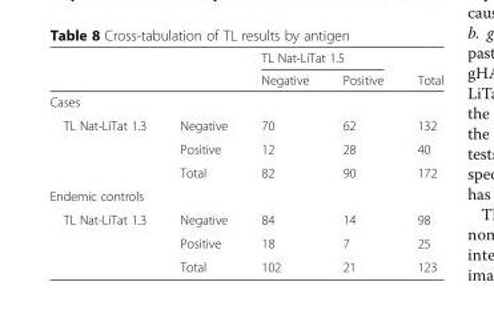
<table><thead><tr><td rowspan="2"></td><td rowspan="2"></td><td colspan="2">TL Nat-LiTat 1.5</td><td rowspan="2">Total</td></tr><tr><td>Negative</td><td>Positive</td></tr></thead><tbody><tr><td colspan="5">Cases</td></tr><tr><td rowspan="3">TL Nat-LiTat 1.3</td><td>Negative</td><td>70</td><td>62</td><td>132</td></tr><tr><td>Positive</td><td>12</td><td>28</td><td>40</td></tr><tr><td>Total</td><td>82</td><td>90</td><td>172</td></tr><tr><td colspan="5">Endemic controls</td></tr><tr><td rowspan="3">TL Nat-LiTat 1.3</td><td>Negative</td><td>84</td><td>14</td><td>98</td></tr><tr><td>Positive</td><td>18</td><td>7</td><td>25</td></tr><tr><td>Total</td><td>102</td><td>21</td><td>123</td></tr></tbody></table>